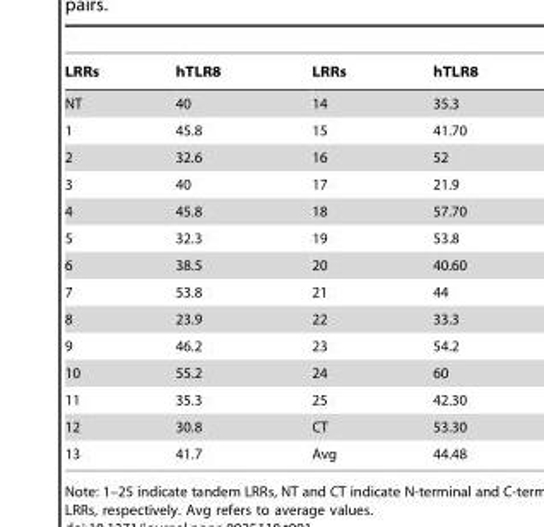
<table><thead><tr><td>LRRs</td><td>hTLR8</td><td>LRRs</td><td>hTLR8</td></tr></thead><tbody><tr><td>NT</td><td>40</td><td>14</td><td>35.3</td></tr><tr><td>1</td><td>45.8</td><td>15</td><td>41.70</td></tr><tr><td>2</td><td>32.6</td><td>16</td><td>52</td></tr><tr><td>3</td><td>40</td><td>17</td><td>21.9</td></tr><tr><td>4</td><td>45.8</td><td>18</td><td>57.70</td></tr><tr><td>5</td><td>32.3</td><td>19</td><td>53.8</td></tr><tr><td>6</td><td>38.5</td><td>20</td><td>40.60</td></tr><tr><td>7</td><td>53.8</td><td>21</td><td>44</td></tr><tr><td>8</td><td>23.9</td><td>22</td><td>33.3</td></tr><tr><td>9</td><td>46.2</td><td>23</td><td>54.2</td></tr><tr><td>10</td><td>55.2</td><td>24</td><td>60</td></tr><tr><td>11</td><td>35.3</td><td>25</td><td>42.30</td></tr><tr><td>12</td><td>30.8</td><td>CT</td><td>53.30</td></tr><tr><td>13</td><td>41.7</td><td>Avg</td><td>44.48</td></tr></tbody></table>